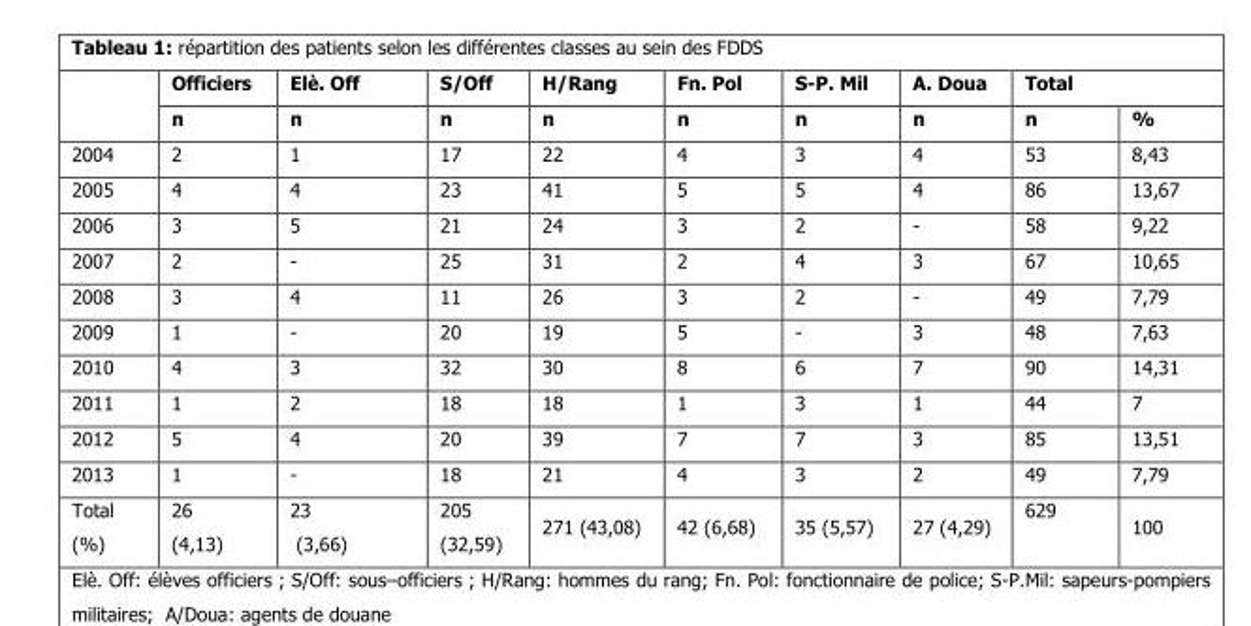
<table><thead><tr><td rowspan="2"></td><td rowspan="2">Officiers n</td><td rowspan="2">Elè. Off n</td><td rowspan="2">S/Off n</td><td rowspan="2">H/Rang n</td><td rowspan="2">Fn. Pol n</td><td rowspan="2">S-P. Mil n</td><td rowspan="2">A. Doua n</td><td colspan="2">Total</td></tr><tr><td>n</td><td>%</td></tr></thead><tbody><tr><td>2004</td><td>2</td><td>1</td><td>17</td><td>22</td><td>4</td><td>3</td><td>4</td><td>53</td><td>8,43</td></tr><tr><td>2005</td><td>4</td><td>4</td><td>23</td><td>41</td><td>5</td><td>5</td><td>4</td><td>86</td><td>13,67</td></tr><tr><td>2006</td><td>3</td><td>5</td><td>21</td><td>24</td><td>3</td><td>2</td><td>-</td><td>58</td><td>9,22</td></tr><tr><td>2007</td><td>2</td><td>-</td><td>25</td><td>31</td><td>2</td><td>4</td><td>3</td><td>67</td><td>10,65</td></tr><tr><td>2008</td><td>3</td><td>4</td><td>11</td><td>26</td><td>3</td><td>2</td><td>-</td><td>49</td><td>7,79</td></tr><tr><td>2009</td><td>1</td><td>-</td><td>20</td><td>19</td><td>5</td><td>-</td><td>3</td><td>48</td><td>7,63</td></tr><tr><td>2010</td><td>4</td><td>3</td><td>32</td><td>30</td><td>8</td><td>6</td><td>7</td><td>90</td><td>14,31</td></tr><tr><td>2011</td><td>1</td><td>2</td><td>18</td><td>18</td><td>1</td><td>3</td><td>1</td><td>44</td><td>7</td></tr><tr><td>2012</td><td>5</td><td>4</td><td>20</td><td>39</td><td>7</td><td>7</td><td>3</td><td>85</td><td>13,51</td></tr><tr><td>2013</td><td>1</td><td>-</td><td>18</td><td>21</td><td>4</td><td>3</td><td>2</td><td>49</td><td>7,79</td></tr><tr><td>Total (%)</td><td>26 (4,13)</td><td>23 (3,66)</td><td>205 (32,59)</td><td>271 (43,08)</td><td>42 (6,68)</td><td>35 (5,57)</td><td>27 (4,29)</td><td>629</td><td>100</td></tr></tbody></table>